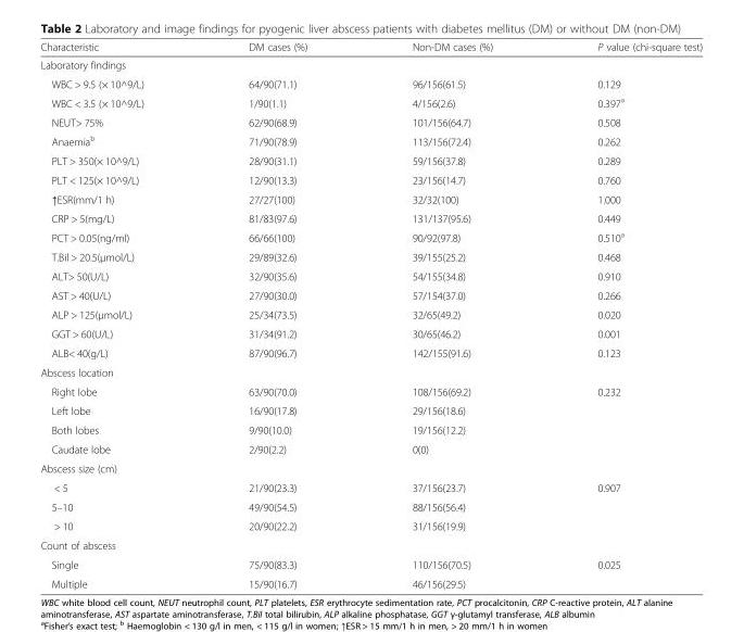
<table><thead><tr><td>Characteristic</td><td>DM cases (%)</td><td>Non-DM cases (%)</td><td>P value (chi-square test)</td></tr></thead><tbody><tr><td colspan="4">Laboratory findings</td></tr><tr><td>WBC &gt; 9.5 (× 10^9/L)</td><td>64/90(71.1)</td><td>96/156(61.5)</td><td>0.129</td></tr><tr><td>WBC &lt; 3.5 (× 10^9/L)</td><td>1/90(1.1)</td><td>4/156(2.6)</td><td>0.397<sup>a</sup></td></tr><tr><td>NEUT&gt; 75%</td><td>62/90(68.9)</td><td>101/156(64.7)</td><td>0.508</td></tr><tr><td>Anaemia<sup>b</sup></td><td>71/90(78.9)</td><td>113/156(72.4)</td><td>0.262</td></tr><tr><td>PLT &gt; 350(× 10^9/L)</td><td>28/90(31.1)</td><td>59/156(37.8)</td><td>0.289</td></tr><tr><td>PLT &lt; 125(× 10^9/L)</td><td>12/90(13.3)</td><td>23/156(14.7)</td><td>0.760</td></tr><tr><td>↑ESR(mm/1 h)</td><td>27/27(100)</td><td>32/32(100)</td><td>1.000</td></tr><tr><td>CRP &gt; 5(mg/L)</td><td>81/83(97.6)</td><td>131/137(95.6)</td><td>0.449</td></tr><tr><td>PCT &gt; 0.05(ng/ml)</td><td>66/66(100)</td><td>90/92(97.8)</td><td>0.510<sup>a</sup></td></tr><tr><td>T.Bil &gt; 20.5(μmol/L)</td><td>29/89(32.6)</td><td>39/155(25.2)</td><td>0.468</td></tr><tr><td>ALT&gt; 50(U/L)</td><td>32/90(35.6)</td><td>54/155(34.8)</td><td>0.910</td></tr><tr><td>AST &gt; 40(U/L)</td><td>27/90(30.0)</td><td>57/154(37.0)</td><td>0.266</td></tr><tr><td>ALP &gt; 125(μmol/L)</td><td>25/34(73.5)</td><td>32/65(49.2)</td><td>0.020</td></tr><tr><td>GGT &gt; 60(U/L)</td><td>31/34(91.2)</td><td>30/65(46.2)</td><td>0.001</td></tr><tr><td>ALB&lt; 40(g/L)</td><td>87/90(96.7)</td><td>142/155(91.6)</td><td>0.123</td></tr><tr><td colspan="4">Abscess location</td></tr><tr><td>Right lobe</td><td>63/90(70.0)</td><td>108/156(69.2)</td><td>0.232</td></tr><tr><td>Left lobe</td><td>16/90(17.8)</td><td>29/156(18.6)</td><td></td></tr><tr><td>Both lobes</td><td>9/90(10.0)</td><td>19/156(12.2)</td><td></td></tr><tr><td>Caudate lobe</td><td>2/90(2.2)</td><td>0(0)</td><td></td></tr><tr><td colspan="4">Abscess size (cm)</td></tr><tr><td>&lt; 5</td><td>21/90(23.3)</td><td>37/156(23.7)</td><td>0.907</td></tr><tr><td>5–10</td><td>49/90(54.5)</td><td>88/156(56.4)</td><td></td></tr><tr><td>&gt; 10</td><td>20/90(22.2)</td><td>31/156(19.9)</td><td></td></tr><tr><td colspan="4">Count of abscess</td></tr><tr><td>Single</td><td>75/90(83.3)</td><td>110/156(70.5)</td><td>0.025</td></tr><tr><td>Multiple</td><td>15/90(16.7)</td><td>46/156(29.5)</td><td></td></tr></tbody></table>